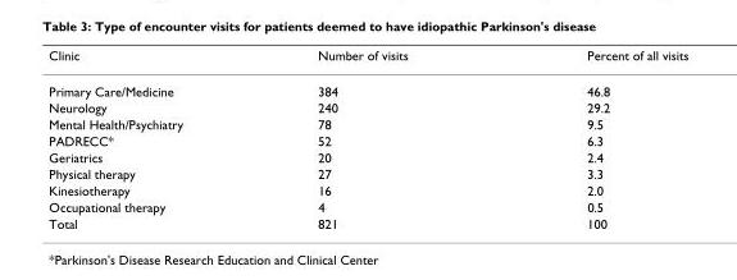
<table><thead><tr><td>Clinic</td><td>Number of visits</td><td>Percent of all visits</td></tr></thead><tbody><tr><td>Primary Care/Medicine</td><td>384</td><td>46.8</td></tr><tr><td>Neurology</td><td>240</td><td>29.2</td></tr><tr><td>Mental Health/Psychiatry</td><td>78</td><td>9.5</td></tr><tr><td>PADRECC*</td><td>52</td><td>6.3</td></tr><tr><td>Geriatrics</td><td>20</td><td>2.4</td></tr><tr><td>Physical therapy</td><td>27</td><td>3.3</td></tr><tr><td>Kinesiotherapy</td><td>16</td><td>2.0</td></tr><tr><td>Occupational therapy</td><td>4</td><td>0.5</td></tr><tr><td>Total</td><td>821</td><td>100</td></tr></tbody></table>